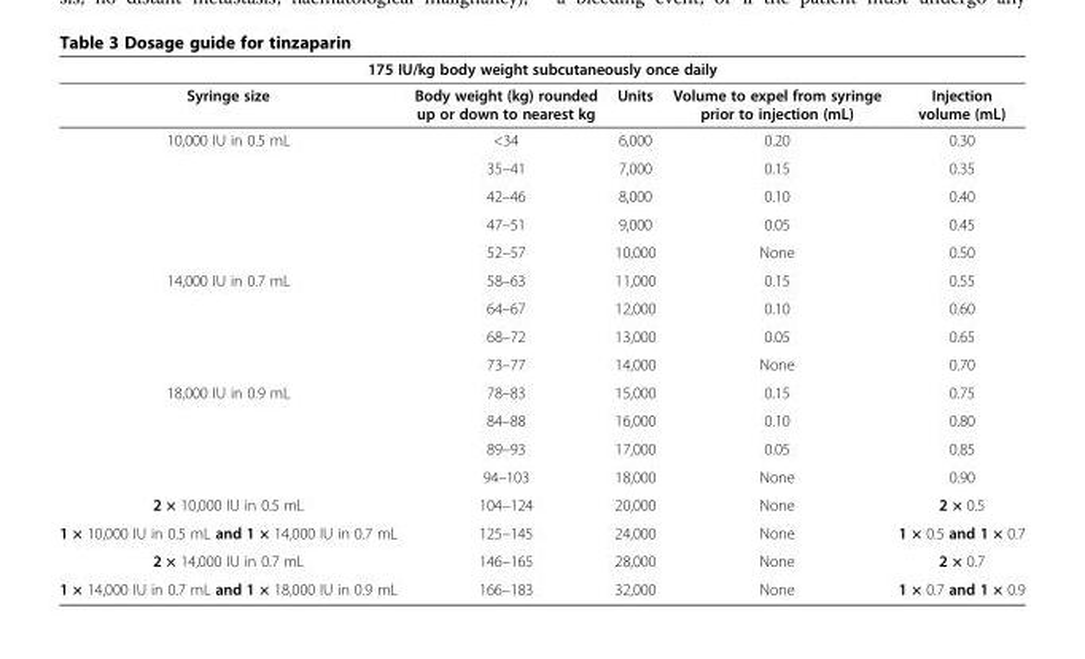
<table><thead><tr><td colspan="5">175 IU/kg body weight subcutaneously once daily</td></tr><tr><td>Syringe size</td><td>Body weight (kg) rounded up or down to nearest kg</td><td>Units</td><td>Volume to expel from syringe prior to injection (mL)</td><td>Injection volume (mL)</td></tr></thead><tbody><tr><td rowspan="5">10,000 IU in 0.5 mL</td><td>&lt;34</td><td>6,000</td><td>0.20</td><td>0.30</td></tr><tr><td>35–41</td><td>7,000</td><td>0.15</td><td>0.35</td></tr><tr><td>42–46</td><td>8,000</td><td>0.10</td><td>0.40</td></tr><tr><td>47–51</td><td>9,000</td><td>0.05</td><td>0.45</td></tr><tr><td>52–57</td><td>10,000</td><td>None</td><td>0.50</td></tr><tr><td rowspan="4">14,000 IU in 0.7 mL</td><td>58–63</td><td>11,000</td><td>0.15</td><td>0.55</td></tr><tr><td>64–67</td><td>12,000</td><td>0.10</td><td>0.60</td></tr><tr><td>68–72</td><td>13,000</td><td>0.05</td><td>0.65</td></tr><tr><td>73–77</td><td>14,000</td><td>None</td><td>0.70</td></tr><tr><td rowspan="4">18,000 IU in 0.9 mL</td><td>78–83</td><td>15,000</td><td>0.15</td><td>0.75</td></tr><tr><td>84–88</td><td>16,000</td><td>0.10</td><td>0.80</td></tr><tr><td>89–93</td><td>17,000</td><td>0.05</td><td>0.85</td></tr><tr><td>94–103</td><td>18,000</td><td>None</td><td>0.90</td></tr><tr><td>2 × 10,000 IU in 0.5 mL</td><td>104–124</td><td>20,000</td><td>None</td><td>2 × 0.5</td></tr><tr><td>1 × 10,000 IU in 0.5 mL and 1 × 14,000 IU in 0.7 mL</td><td>125–145</td><td>24,000</td><td>None</td><td>1 × 0.5 and 1 × 0.7</td></tr><tr><td>2 × 14,000 IU in 0.7 mL</td><td>146–165</td><td>28,000</td><td>None</td><td>2 × 0.7</td></tr><tr><td>1 × 14,000 IU in 0.7 mL and 1 × 18,000 IU in 0.9 mL</td><td>166–183</td><td>32,000</td><td>None</td><td>1 × 0.7 and 1 × 0.9</td></tr></tbody></table>